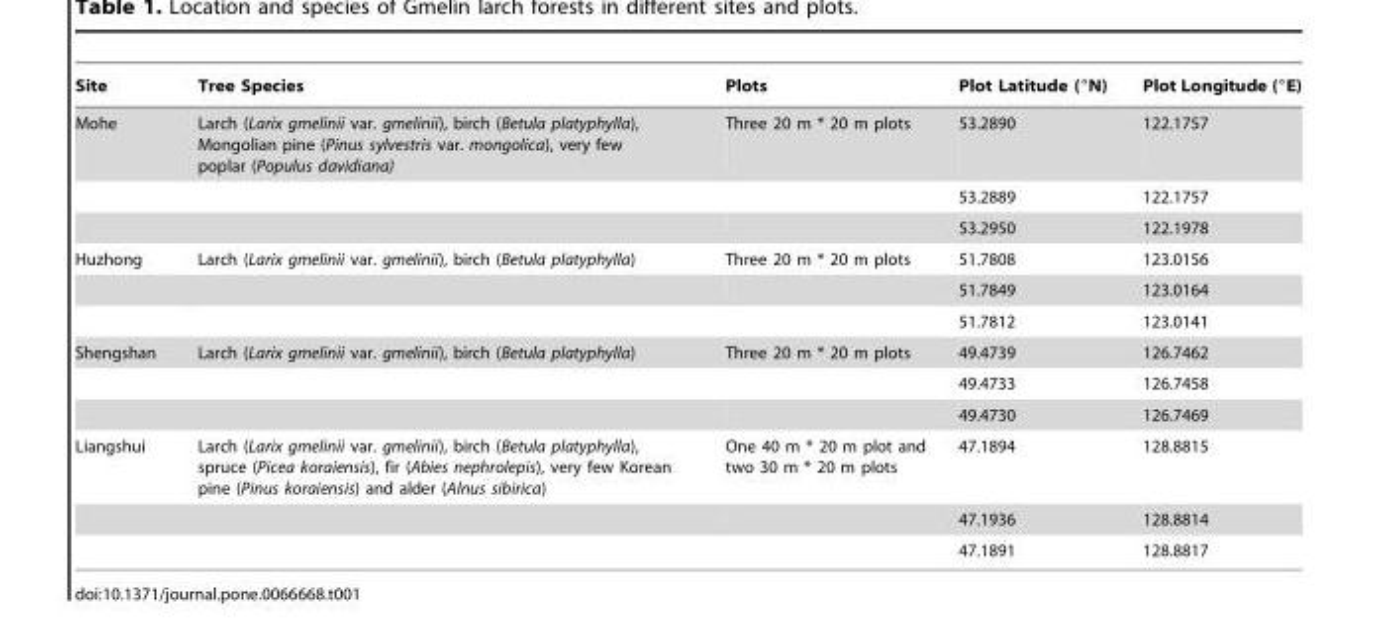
<table><thead><tr><td>Site</td><td>Tree Species</td><td>Plots</td><td>Plot Latitude (°N)</td><td>Plot Longitude (°E)</td></tr></thead><tbody><tr><td rowspan="3">Mohe</td><td>Larch (Larix gmelinii var. gmelinii), birch (Betula platyphylla), Mongolian pine (Pinus sylvestris var. mongolica), very few poplar (Populus davidiana)</td><td>Three 20 m * 20 m plots</td><td>53.2890</td><td>122.1757</td></tr><tr><td></td><td></td><td>53.2889</td><td>122.1757</td></tr><tr><td></td><td></td><td>53.2950</td><td>122.1978</td></tr><tr><td rowspan="3">Huzhong</td><td>Larch (Larix gmelinii var. gmelinii), birch (Betula platyphylla)</td><td>Three 20 m * 20 m plots</td><td>51.7808</td><td>123.0156</td></tr><tr><td></td><td></td><td>51.7849</td><td>123.0164</td></tr><tr><td></td><td></td><td>51.7812</td><td>123.0141</td></tr><tr><td rowspan="3">Shengshan</td><td>Larch (Larix gmelinii var. gmelinii), birch (Betula platyphylla)</td><td>Three 20 m * 20 m plots</td><td>49.4739</td><td>126.7462</td></tr><tr><td></td><td></td><td>49.4733</td><td>126.7458</td></tr><tr><td></td><td></td><td>49.4730</td><td>126.7469</td></tr><tr><td rowspan="3">Liangshui</td><td>Larch (Larix gmelinii var. gmelinii), birch (Betula platyphylla), spruce (Picea koraiensis), fir (Abies nephrolepis), very few Korean pine (Pinus koraiensis) and alder (Alnus sibirica)</td><td>One 40 m * 20 m plot and two 30 m * 20 m plots</td><td>47.1894</td><td>128.8815</td></tr><tr><td></td><td></td><td>47.1936</td><td>128.8814</td></tr><tr><td></td><td></td><td>47.1891</td><td>128.8817</td></tr></tbody></table>